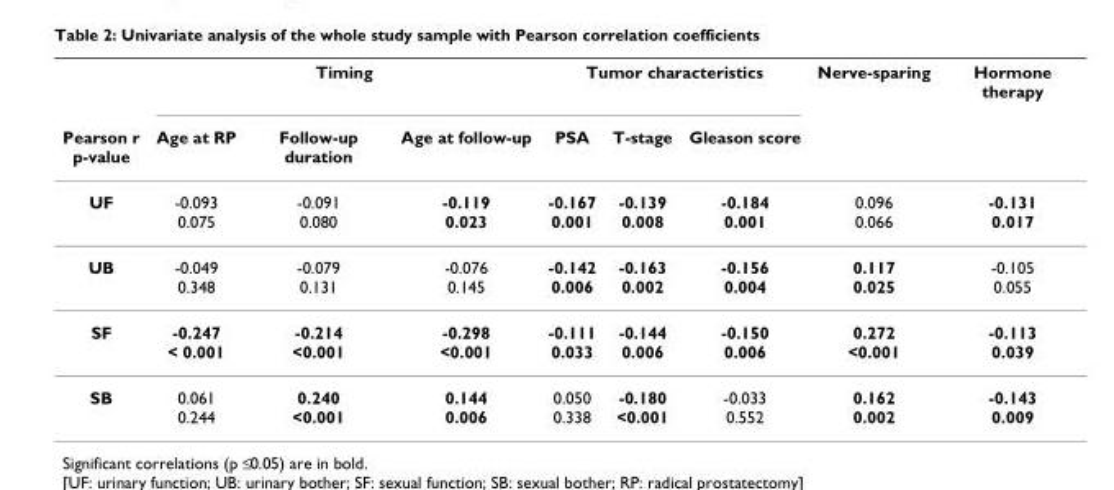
<table><thead><tr><td rowspan="2">Pearson r p-value</td><td colspan="3">Timing</td><td colspan="3">Tumor characteristics</td><td rowspan="2">Nerve-sparing</td><td rowspan="2">Hormone therapy</td></tr><tr><td>Age at RP</td><td>Follow-up duration</td><td>Age at follow-up</td><td>PSA</td><td>T-stage</td><td>Gleason score</td></tr></thead><tbody><tr><td>UF</td><td>-0.093 0.075</td><td>-0.091 0.080</td><td>-0.119 0.023</td><td>-0.167 0.001</td><td>-0.139 0.008</td><td>-0.184 0.001</td><td>0.096 0.066</td><td>-0.131 0.017</td></tr><tr><td>UB</td><td>-0.049 0.348</td><td>-0.079 0.131</td><td>-0.076 0.145</td><td>-0.142 0.006</td><td>-0.163 0.002</td><td>-0.156 0.004</td><td>0.117 0.025</td><td>-0.105 0.055</td></tr><tr><td>SF</td><td>-0.247 &lt; 0.001</td><td>-0.214 &lt;0.001</td><td>-0.298 &lt;0.001</td><td>-0.111 0.033</td><td>-0.144 0.006</td><td>-0.150 0.006</td><td>0.272 &lt;0.001</td><td>-0.113 0.039</td></tr><tr><td>SB</td><td>0.061 0.244</td><td>0.240 &lt;0.001</td><td>0.144 0.006</td><td>0.050 0.338</td><td>-0.180 &lt;0.001</td><td>-0.033 0.552</td><td>0.162 0.002</td><td>-0.143 0.009</td></tr></tbody></table>